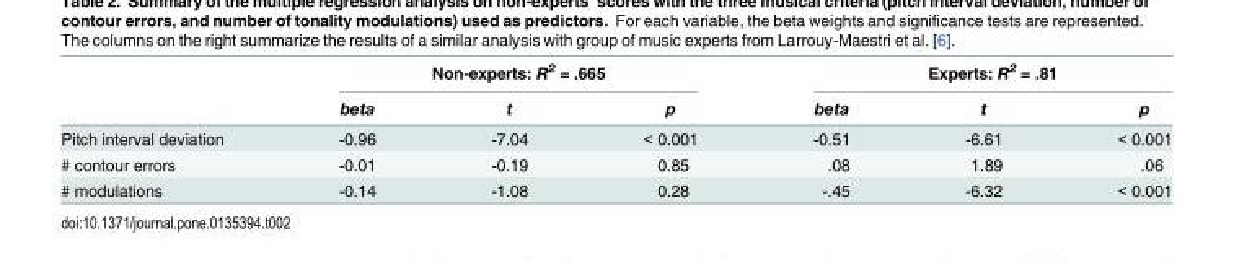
<table><thead><tr><td rowspan="2"></td><td colspan="3">Non-experts: R<sup>2</sup> = .665</td><td colspan="3">Experts: R<sup>2</sup> = .81</td></tr><tr><td>beta</td><td>t</td><td>p</td><td>beta</td><td>t</td><td>p</td></tr></thead><tbody><tr><td>Pitch interval deviation</td><td>-0.96</td><td>-7.04</td><td>&lt; 0.001</td><td>-0.51</td><td>-6.61</td><td>&lt; 0.001</td></tr><tr><td># contour errors</td><td>-0.01</td><td>-0.19</td><td>0.85</td><td>.08</td><td>1.89</td><td>.06</td></tr><tr><td># modulations</td><td>-0.14</td><td>-1.08</td><td>0.28</td><td>-.45</td><td>-6.32</td><td>&lt; 0.001</td></tr></tbody></table>